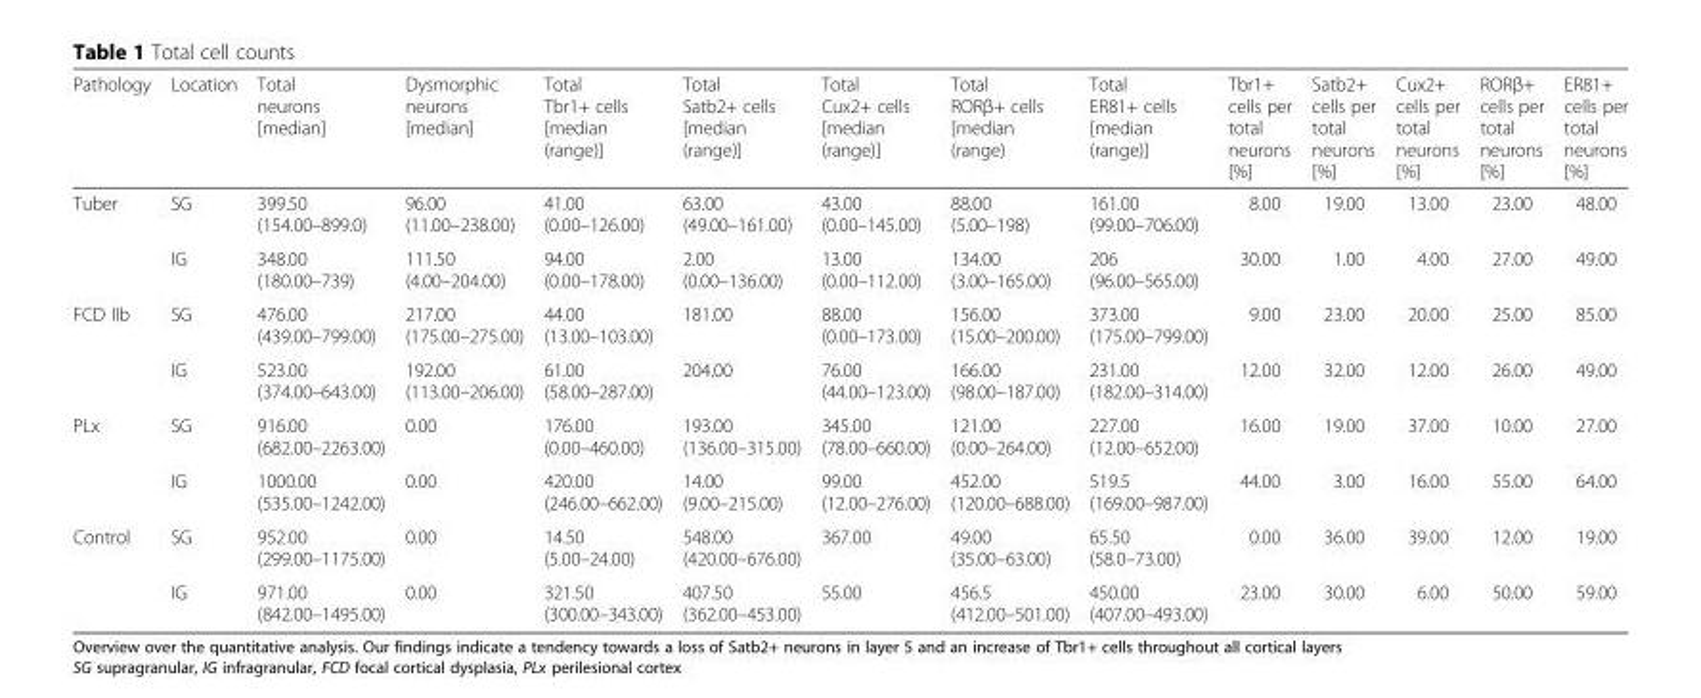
<table><thead><tr><td>Pathology</td><td>Location</td><td>Total neurons [median]</td><td>Dysmorphic neurons [median]</td><td>Total Tbr1+ cells [median (range)]</td><td>Total Satb2+ cells [median (range)]</td><td>Total Cux2+ cells [median (range)]</td><td>Total RORβ+ cells [median (range)</td><td>Total ER81+ cells [median (range)]</td><td>Tbr1+ cells per total neurons [%]</td><td>Satb2+ cells per total neurons [%]</td><td>Cux2+ cells per total neurons [%]</td><td>RORβ+ cells per total neurons [%]</td><td>ER81+ cells per total neurons [%]</td></tr></thead><tbody><tr><td rowspan="2">Tuber</td><td>SG</td><td>399.50 (154.00–899.0)</td><td>96.00 (11.00–238.00)</td><td>41.00 (0.00–126.00)</td><td>63.00 (49.00–161.00)</td><td>43.00 (0.00–145.00)</td><td>88.00 (5.00–198)</td><td>161.00 (99.00–706.00)</td><td>8.00</td><td>19.00</td><td>13.00</td><td>23.00</td><td>48.00</td></tr><tr><td>IG</td><td>348.00 (180.00–739)</td><td>111.50 (4.00–204.00)</td><td>94.00 (0.00–178.00)</td><td>2.00 (0.00–136.00)</td><td>13.00 (0.00–112.00)</td><td>134.00 (3.00–165.00)</td><td>206 (96.00–565.00)</td><td>30.00</td><td>1.00</td><td>4.00</td><td>27.00</td><td>49.00</td></tr><tr><td rowspan="2">FCD IIb</td><td>SG</td><td>476.00 (439.00–799.00)</td><td>217.00 (175.00–275.00)</td><td>44.00 (13.00–103.00)</td><td>181.00</td><td>88.00 (0.00–173.00)</td><td>156.00 (15.00–200.00)</td><td>373.00 (175.00–799.00)</td><td>9.00</td><td>23.00</td><td>20.00</td><td>25.00</td><td>85.00</td></tr><tr><td>IG</td><td>523.00 (374.00–643.00)</td><td>192.00 (113.00–206.00)</td><td>61.00 (58.00–287.00)</td><td>204.00</td><td>76.00 (44.00–123.00)</td><td>166.00 (98.00–187.00)</td><td>231.00 (182.00–314.00)</td><td>12.00</td><td>32.00</td><td>12.00</td><td>26.00</td><td>49.00</td></tr><tr><td rowspan="2">PLx</td><td>SG</td><td>916.00 (682.00–2263.00)</td><td>0.00</td><td>176.00 (0.00–460.00)</td><td>193.00 (136.00–315.00)</td><td>345.00 (78.00–660.00)</td><td>121.00 (0.00–264.00)</td><td>227.00 (12.00–652.00)</td><td>16.00</td><td>19.00</td><td>37.00</td><td>10.00</td><td>27.00</td></tr><tr><td>IG</td><td>1000.00 (535.00–1242.00)</td><td>0.00</td><td>420.00 (246.00–662.00)</td><td>14.00 (9.00–215.00)</td><td>99.00 (12.00–276.00)</td><td>452.00 (120.00–688.00)</td><td>519.5 (169.00–987.00)</td><td>44.00</td><td>3.00</td><td>16.00</td><td>55.00</td><td>64.00</td></tr><tr><td rowspan="2">Control</td><td>SG</td><td>952.00 (299.00–1175.00)</td><td>0.00</td><td>14.50 (5.00–24.00)</td><td>548.00 (420.00–676.00)</td><td>367.00</td><td>49.00 (35.00–63.00)</td><td>65.50 (58.0–73.00)</td><td>0.00</td><td>36.00</td><td>39.00</td><td>12.00</td><td>19.00</td></tr><tr><td>IG</td><td>971.00 (842.00–1495.00)</td><td>0.00</td><td>321.50 (300.00–343.00)</td><td>407.50 (362.00–453.00)</td><td>55.00</td><td>456.5 (412.00–501.00)</td><td>450.00 (407.00–493.00)</td><td>23.00</td><td>30.00</td><td>6.00</td><td>50.00</td><td>59.00</td></tr></tbody></table>